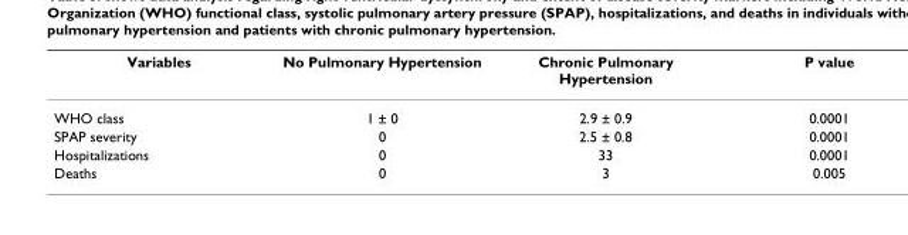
<table><thead><tr><td>Variables</td><td>No Pulmonary Hypertension</td><td>Chronic Pulmonary Hypertension</td><td>P value</td></tr></thead><tbody><tr><td>WHO class</td><td>1 ± 0</td><td>2.9 ± 0.9</td><td>0.0001</td></tr><tr><td>SPAP severity</td><td>0</td><td>2.5 ± 0.8</td><td>0.0001</td></tr><tr><td>Hospitalizations</td><td>0</td><td>33</td><td>0.0001</td></tr><tr><td>Deaths</td><td>0</td><td>3</td><td>0.005</td></tr></tbody></table>